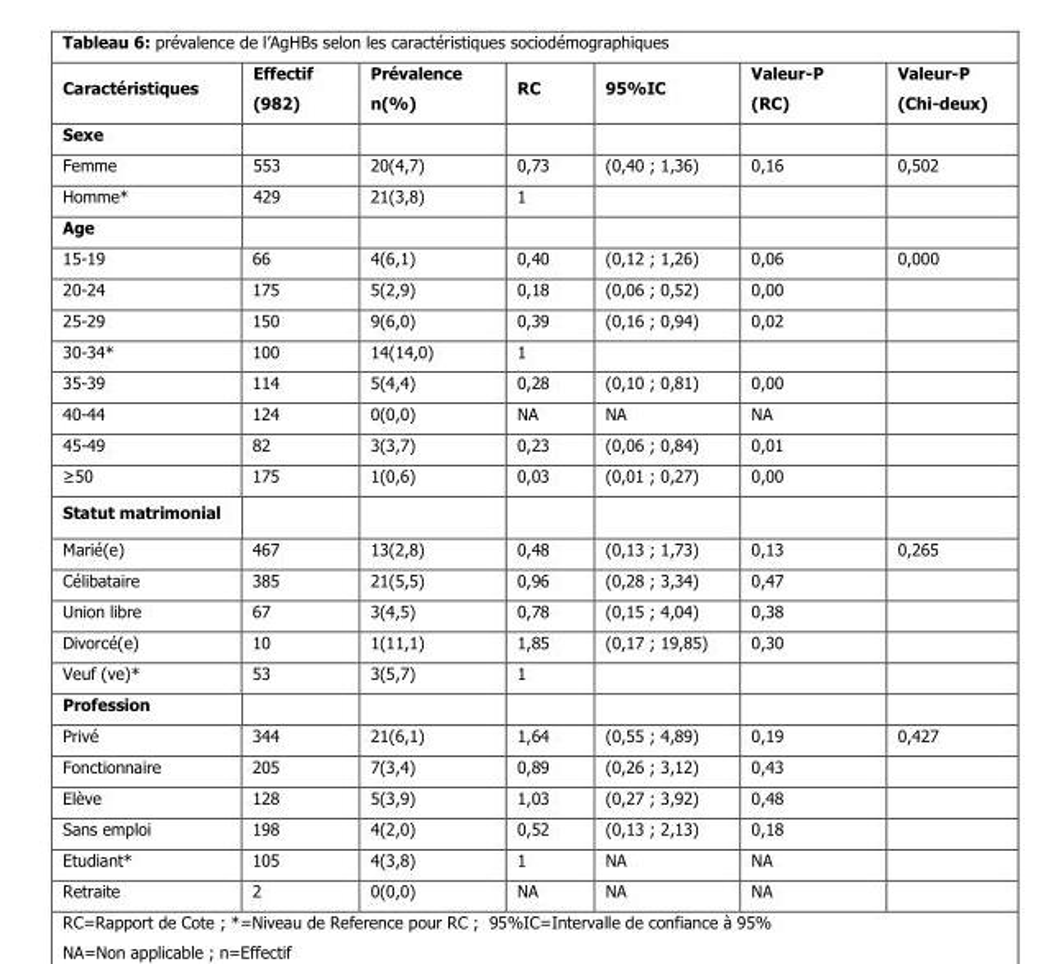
<table><thead><tr><td>Caractéristiques</td><td>Effectif (982)</td><td>Prévalence n(%)</td><td>RC</td><td>95%IC</td><td>Valeur-P (RC)</td><td>Valeur-P (Chi-deux)</td></tr></thead><tbody><tr><td colspan="7">Sexe</td></tr><tr><td>Femme</td><td>553</td><td>20(4,7)</td><td>0,73</td><td>(0,40 ; 1,36)</td><td>0,16</td><td>0,502</td></tr><tr><td>Homme*</td><td>429</td><td>21(3,8)</td><td>1</td><td></td><td></td><td></td></tr><tr><td colspan="7">Age</td></tr><tr><td>15-19</td><td>66</td><td>4(6,1)</td><td>0,40</td><td>(0,12 ; 1,26)</td><td>0,06</td><td>0,000</td></tr><tr><td>20-24</td><td>175</td><td>5(2,9)</td><td>0,18</td><td>(0,06 ; 0,52)</td><td>0,00</td><td></td></tr><tr><td>25-29</td><td>150</td><td>9(6,0)</td><td>0,39</td><td>(0,16 ; 0,94)</td><td>0,02</td><td></td></tr><tr><td>30-34*</td><td>100</td><td>14(14,0)</td><td>1</td><td></td><td></td><td></td></tr><tr><td>35-39</td><td>114</td><td>5(4,4)</td><td>0,28</td><td>(0,10 ; 0,81)</td><td>0,00</td><td></td></tr><tr><td>40-44</td><td>124</td><td>0(0,0)</td><td>NA</td><td>NA</td><td>NA</td><td></td></tr><tr><td>45-49</td><td>82</td><td>3(3,7)</td><td>0,23</td><td>(0,06 ; 0,84)</td><td>0,01</td><td></td></tr><tr><td>≥50</td><td>175</td><td>1(0,6)</td><td>0,03</td><td>(0,01 ; 0,27)</td><td>0,00</td><td></td></tr><tr><td colspan="7">Statut matrimonial</td></tr><tr><td>Marié(e)</td><td>467</td><td>13(2,8)</td><td>0,48</td><td>(0,13 ; 1,73)</td><td>0,13</td><td>0,265</td></tr><tr><td>Célibataire</td><td>385</td><td>21(5,5)</td><td>0,96</td><td>(0,28 ; 3,34)</td><td>0,47</td><td></td></tr><tr><td>Union libre</td><td>67</td><td>3(4,5)</td><td>0,78</td><td>(0,15 ; 4,04)</td><td>0,38</td><td></td></tr><tr><td>Divorcé(e)</td><td>10</td><td>1(11,1)</td><td>1,85</td><td>(0,17 ; 19,85)</td><td>0,30</td><td></td></tr><tr><td>Veuf (ve)*</td><td>53</td><td>3(5,7)</td><td>1</td><td></td><td></td><td></td></tr><tr><td colspan="7">Profession</td></tr><tr><td>Privé</td><td>344</td><td>21(6,1)</td><td>1,64</td><td>(0,55 ; 4,89)</td><td>0,19</td><td>0,427</td></tr><tr><td>Fonctionnaire</td><td>205</td><td>7(3,4)</td><td>0,89</td><td>(0,26 ; 3,12)</td><td>0,43</td><td></td></tr><tr><td>Elève</td><td>128</td><td>5(3,9)</td><td>1,03</td><td>(0,27 ; 3,92)</td><td>0,48</td><td></td></tr><tr><td>Sans emploi</td><td>198</td><td>4(2,0)</td><td>0,52</td><td>(0,13 ; 2,13)</td><td>0,18</td><td></td></tr><tr><td>Etudiant*</td><td>105</td><td>4(3,8)</td><td>1</td><td>NA</td><td>NA</td><td></td></tr><tr><td>Retraite</td><td>2</td><td>0(0,0)</td><td>NA</td><td>NA</td><td>NA</td><td></td></tr></tbody></table>